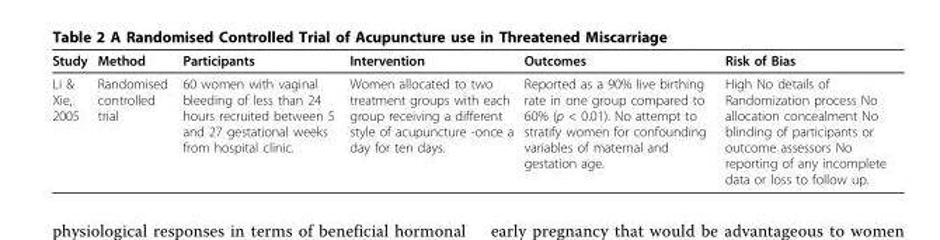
<table><thead><tr><td>Study</td><td>Method</td><td>Participants</td><td>Intervention</td><td>Outcomes</td><td>Risk of Bias</td></tr></thead><tbody><tr><td>Li &amp; Xie, 2005</td><td>Randomised controlled trial</td><td>60 women with vaginal bleeding of less than 24 hours recruited between 5 and 27 gestational weeks from hospital clinic.</td><td>Women allocated to two treatment groups with each group receiving a different style of acupuncture -once a day for ten days.</td><td>Reported as a 90% live birthing rate in one group compared to 60% (p &lt; 0.01). No attempt to stratify women for confounding variables of maternal and gestation age.</td><td>High No details of Randomization process No allocation concealment No blinding of participants or outcome assessors No reporting of any incomplete data or loss to follow up.</td></tr></tbody></table>